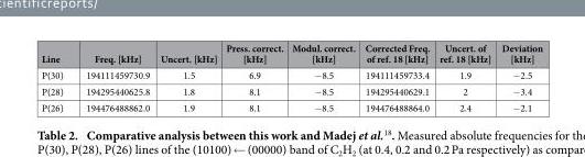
<table><thead><tr><td>Line</td><td>Freq. [kHz]</td><td>Uncert. [kHz]</td><td>Press. correct. [kHz]</td><td>Modul. correct. [kHz]</td><td>Corrected Freq. of ref. 18 [kHz]</td><td>Uncert. of ref. 18 [kHz]</td><td>Deviation [kHz]</td></tr></thead><tbody><tr><td>P(30)</td><td>194111459730.9</td><td>1.5</td><td>6.9</td><td>− 8.5</td><td>194111459733.4</td><td>1.9</td><td>− 2.5</td></tr><tr><td>P(28)</td><td>194295440625.8</td><td>1.8</td><td>8.1</td><td>− 8.5</td><td>194295440629.1</td><td>2</td><td>− 3.4</td></tr><tr><td>P(26)</td><td>194476488862.0</td><td>1.9</td><td>8.1</td><td>− 8.5</td><td>194476488864.0</td><td>2.4</td><td>− 2.1</td></tr></tbody></table>